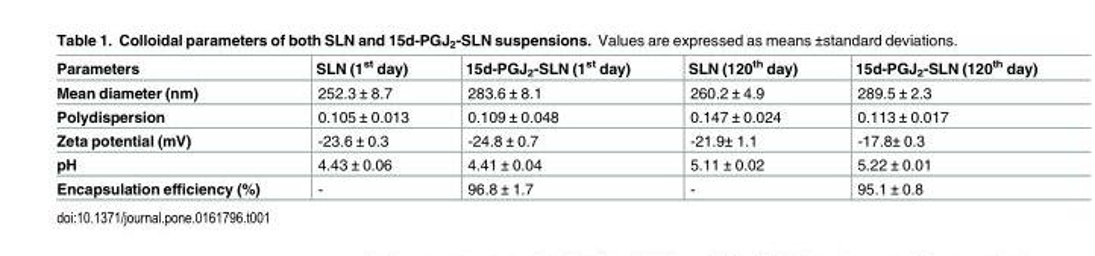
<table><thead><tr><td>Parameters</td><td>SLN (1<sup>st</sup> day)</td><td>15d-PGJ<sub>2</sub>-SLN (1<sup>st</sup> day)</td><td>SLN (120<sup>th</sup> day)</td><td>15d-PGJ<sub>2</sub>-SLN (120<sup>th</sup> day)</td></tr></thead><tbody><tr><td>Mean diameter (nm)</td><td>252.3 ± 8.7</td><td>283.6 ± 8.1</td><td>260.2 ± 4.9</td><td>289.5 ± 2.3</td></tr><tr><td>Polydispersion</td><td>0.105 ± 0.013</td><td>0.109 ± 0.048</td><td>0.147 ± 0.024</td><td>0.113 ± 0.017</td></tr><tr><td>Zeta potential (mV)</td><td>-23.6 ± 0.3</td><td>-24.8 ± 0.7</td><td>-21.9± 1.1</td><td>-17.8± 0.3</td></tr><tr><td>pH</td><td>4.43 ± 0.06</td><td>4.41 ± 0.04</td><td>5.11 ± 0.02</td><td>5.22 ± 0.01</td></tr><tr><td>Encapsulation efficiency (%)</td><td>-</td><td>96.8 ± 1.7</td><td>-</td><td>95.1 ± 0.8</td></tr></tbody></table>